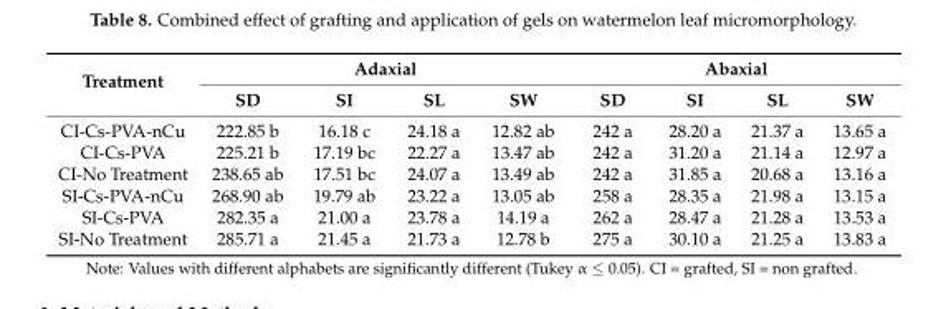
<table><thead><tr><td rowspan="2">Treatment</td><td colspan="4">Adaxial</td><td colspan="4">Abaxial</td></tr><tr><td>SD</td><td>SI</td><td>SL</td><td>SW</td><td>SD</td><td>SI</td><td>SL</td><td>SW</td></tr></thead><tbody><tr><td>CI-Cs-PVA-nCu</td><td>222.85 b</td><td>16.18 c</td><td>24.18 a</td><td>12.82 ab</td><td>242 a</td><td>28.20 a</td><td>21.37 a</td><td>13.65 a</td></tr><tr><td>CI-Cs-PVA</td><td>225.21 b</td><td>17.19 bc</td><td>22.27 a</td><td>13.47 ab</td><td>242 a</td><td>31.20 a</td><td>21.14 a</td><td>12.97 a</td></tr><tr><td>CI-No Treatment</td><td>238.65 ab</td><td>17.51 bc</td><td>24.07 a</td><td>13.49 ab</td><td>242 a</td><td>31.85 a</td><td>20.68 a</td><td>13.16 a</td></tr><tr><td>SI-Cs-PVA-nCu</td><td>268.90 ab</td><td>19.79 ab</td><td>23.22 a</td><td>13.05 ab</td><td>258 a</td><td>28.35 a</td><td>21.98 a</td><td>13.15 a</td></tr><tr><td>SI-Cs-PVA</td><td>282.35 a</td><td>21.00 a</td><td>23.78 a</td><td>14.19 a</td><td>262 a</td><td>28.47 a</td><td>21.28 a</td><td>13.53 a</td></tr><tr><td>SI-No Treatment</td><td>285.71 a</td><td>21.45 a</td><td>21.73 a</td><td>12.78 b</td><td>275 a</td><td>30.10 a</td><td>21.25 a</td><td>13.83 a</td></tr></tbody></table>